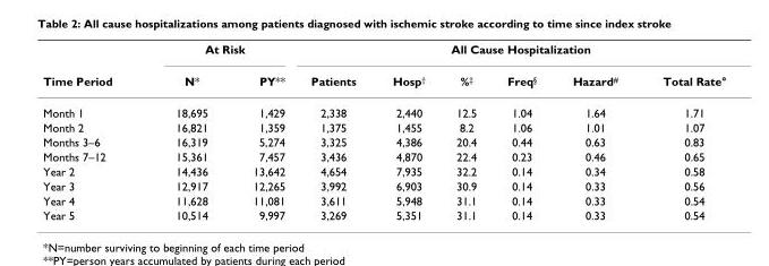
<table><thead><tr><td rowspan="2">Time Period</td><td colspan="2">At Risk</td><td colspan="6">All Cause Hospitalization</td></tr><tr><td>N*</td><td>PY**</td><td>Patients</td><td>Hosp†</td><td>%‡</td><td>Freq§</td><td>Hazard#</td><td>Total Rate°</td></tr></thead><tbody><tr><td>Month 1</td><td>18,695</td><td>1,429</td><td>2,338</td><td>2,440</td><td>12.5</td><td>1.04</td><td>1.64</td><td>1.71</td></tr><tr><td>Month 2</td><td>16,821</td><td>1,359</td><td>1,375</td><td>1,455</td><td>8.2</td><td>1.06</td><td>1.01</td><td>1.07</td></tr><tr><td>Months 3–6</td><td>16,319</td><td>5,274</td><td>3,325</td><td>4,386</td><td>20.4</td><td>0.44</td><td>0.63</td><td>0.83</td></tr><tr><td>Months 7–12</td><td>15,361</td><td>7,457</td><td>3,436</td><td>4,870</td><td>22.4</td><td>0.23</td><td>0.46</td><td>0.65</td></tr><tr><td>Year 2</td><td>14,436</td><td>13,642</td><td>4,654</td><td>7,935</td><td>32.2</td><td>0.14</td><td>0.34</td><td>0.58</td></tr><tr><td>Year 3</td><td>12,917</td><td>12,265</td><td>3,992</td><td>6,903</td><td>30.9</td><td>0.14</td><td>0.33</td><td>0.56</td></tr><tr><td>Year 4</td><td>11,628</td><td>11,081</td><td>3,611</td><td>5,948</td><td>31.1</td><td>0.14</td><td>0.33</td><td>0.54</td></tr><tr><td>Year 5</td><td>10,514</td><td>9,997</td><td>3,269</td><td>5,351</td><td>31.1</td><td>0.14</td><td>0.33</td><td>0.54</td></tr></tbody></table>